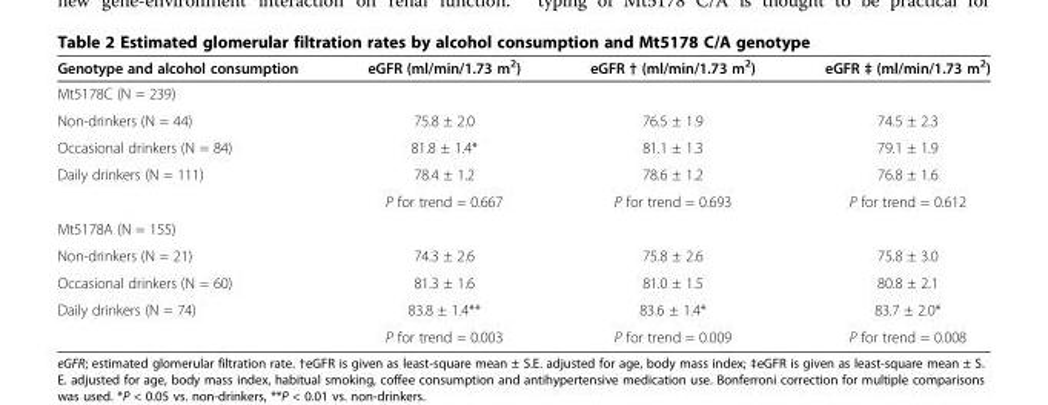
<table><thead><tr><td>Genotype and alcohol consumption</td><td>eGFR (ml/min/1.73 m<sup>2</sup>)</td><td>eGFR † (ml/min/1.73 m<sup>2</sup>)</td><td>eGFR ‡ (ml/min/1.73 m<sup>2</sup>)</td></tr></thead><tbody><tr><td colspan="4">Mt5178C (N = 239)</td></tr><tr><td>Non-drinkers (N = 44)</td><td>75.8 ± 2.0</td><td>76.5 ± 1.9</td><td>74.5 ± 2.3</td></tr><tr><td>Occasional drinkers (N = 84)</td><td>81.8 ± 1.4*</td><td>81.1 ± 1.3</td><td>79.1 ± 1.9</td></tr><tr><td rowspan="2">Daily drinkers (N = 111)</td><td>78.4 ± 1.2</td><td>78.6 ± 1.2</td><td>76.8 ± 1.6</td></tr><tr><td>P for trend = 0.667</td><td>P for trend = 0.693</td><td>P for trend = 0.612</td></tr><tr><td colspan="4">Mt5178A (N = 155)</td></tr><tr><td>Non-drinkers (N = 21)</td><td>74.3 ± 2.6</td><td>75.8 ± 2.6</td><td>75.8 ± 3.0</td></tr><tr><td>Occasional drinkers (N = 60)</td><td>81.3 ± 1.6</td><td>81.0 ± 1.5</td><td>80.8 ± 2.1</td></tr><tr><td rowspan="2">Daily drinkers (N = 74)</td><td>83.8 ± 1.4**</td><td>83.6 ± 1.4*</td><td>83.7 ± 2.0*</td></tr><tr><td>P for trend = 0.003</td><td>P for trend = 0.009</td><td>P for trend = 0.008</td></tr></tbody></table>